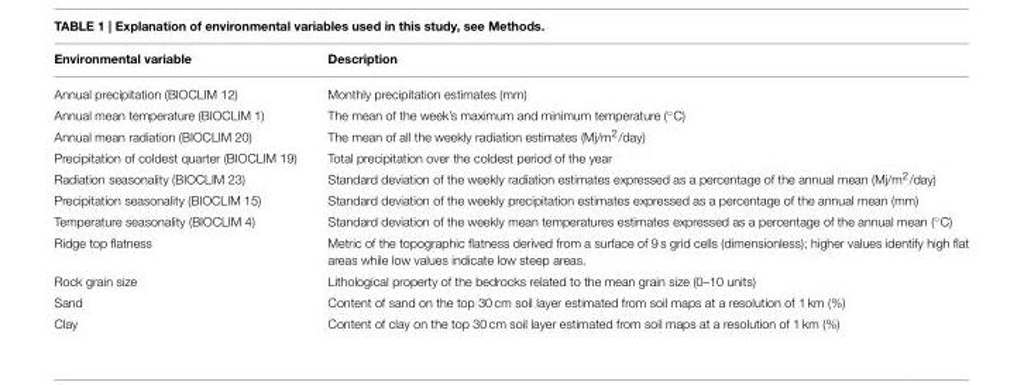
<table><thead><tr><td>Environmental variable</td><td>Description</td></tr></thead><tbody><tr><td>Annual precipitation (BIOCLIM 12)</td><td>Monthly precipitation estimates (mm)</td></tr><tr><td>Annual mean temperature (BIOCLIM 1)</td><td>The mean of the week’s maximum and minimum temperature (◦C)</td></tr><tr><td>Annual mean radiation (BIOCLIM 20)</td><td>The mean of all the weekly radiation estimates (Mj/m<sup>2</sup>/day)</td></tr><tr><td>Precipitation of coldest quarter (BIOCLIM 19)</td><td>Total precipitation over the coldest period of the year</td></tr><tr><td>Radiation seasonality (BIOCLIM 23)</td><td>Standard deviation of the weekly radiation estimates expressed as a percentage of the annual mean (Mj/m<sup>2</sup>/day)</td></tr><tr><td>Precipitation seasonality (BIOCLIM 15)</td><td>Standard deviation of the weekly precipitation estimates expressed as a percentage of the annual mean (mm)</td></tr><tr><td>Temperature seasonality (BIOCLIM 4)</td><td>Standard deviation of the weekly mean temperatures estimates expressed as a percentage of the annual mean (◦C)</td></tr><tr><td>Ridge top flatness</td><td>Metric of the topographic flatness derived from a surface of 9 s grid cells (dimensionless); higher values identify high flat areas while low values indicate low steep areas.</td></tr><tr><td>Rock grain size</td><td>Lithological property of the bedrocks related to the mean grain size (0–10 units)</td></tr><tr><td>Sand</td><td>Content of sand on the top 30 cm soil layer estimated from soil maps at a resolution of 1 km (%)</td></tr><tr><td>Clay</td><td>Content of clay on the top 30 cm soil layer estimated from soil maps at a resolution of 1 km (%)</td></tr></tbody></table>